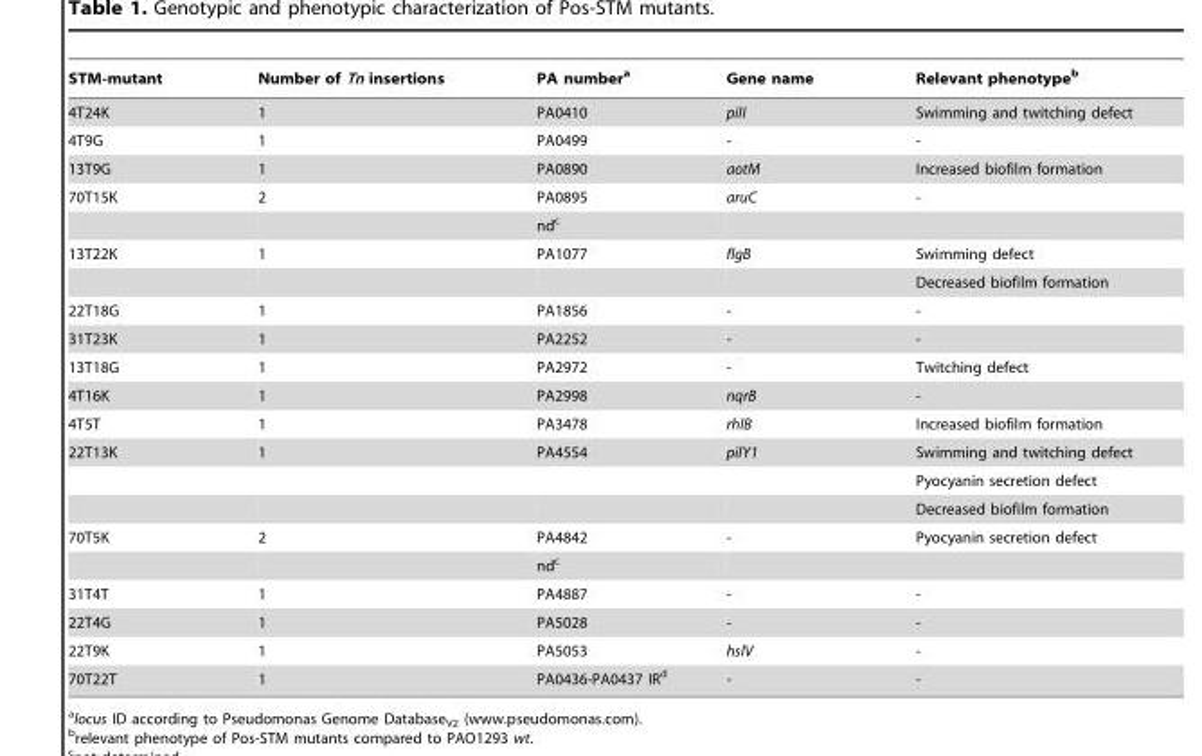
<table><thead><tr><td>STM-mutant</td><td>Number of Tn insertions</td><td>PA number<sup>a</sup></td><td>Gene name</td><td>Relevant phenotype<sup>b</sup></td></tr></thead><tbody><tr><td>4T24K</td><td>1</td><td>PA0410</td><td>pilI</td><td>Swimming and twitching defect</td></tr><tr><td>4T9G</td><td>1</td><td>PA0499</td><td>-</td><td>-</td></tr><tr><td>13T9G</td><td>1</td><td>PA0890</td><td>aotM</td><td>Increased biofilm formation</td></tr><tr><td rowspan="2">70T15K</td><td>2</td><td>PA0895</td><td>aruC</td><td>-</td></tr><tr><td></td><td>nd<sup>c</sup></td><td></td><td></td></tr><tr><td rowspan="2">13T22K</td><td>1</td><td>PA1077</td><td>flgB</td><td>Swimming defect</td></tr><tr><td></td><td></td><td></td><td>Decreased biofilm formation</td></tr><tr><td>22T18G</td><td>1</td><td>PA1856</td><td>-</td><td>-</td></tr><tr><td>31T23K</td><td>1</td><td>PA2252</td><td>-</td><td>-</td></tr><tr><td>13T18G</td><td>1</td><td>PA2972</td><td>-</td><td>Twitching defect</td></tr><tr><td>4T16K</td><td>1</td><td>PA2998</td><td>nqrB</td><td>-</td></tr><tr><td>4T5T</td><td>1</td><td>PA3478</td><td>rhlB</td><td>Increased biofilm formation</td></tr><tr><td rowspan="3">22T13K</td><td>1</td><td>PA4554</td><td>pilY1</td><td>Swimming and twitching defect</td></tr><tr><td></td><td></td><td></td><td>Pyocyanin secretion defect</td></tr><tr><td></td><td></td><td></td><td>Decreased biofilm formation</td></tr><tr><td rowspan="2">70T5K</td><td>2</td><td>PA4842</td><td>-</td><td>Pyocyanin secretion defect</td></tr><tr><td></td><td>nd<sup>c</sup></td><td></td><td></td></tr><tr><td>31T4T</td><td>1</td><td>PA4887</td><td>-</td><td>-</td></tr><tr><td>22T4G</td><td>1</td><td>PA5028</td><td>-</td><td>-</td></tr><tr><td>22T9K</td><td>1</td><td>PA5053</td><td>hslV</td><td>-</td></tr><tr><td>70T22T</td><td>1</td><td>PA0436-PA0437 IR<sup>d</sup></td><td>-</td><td>-</td></tr></tbody></table>